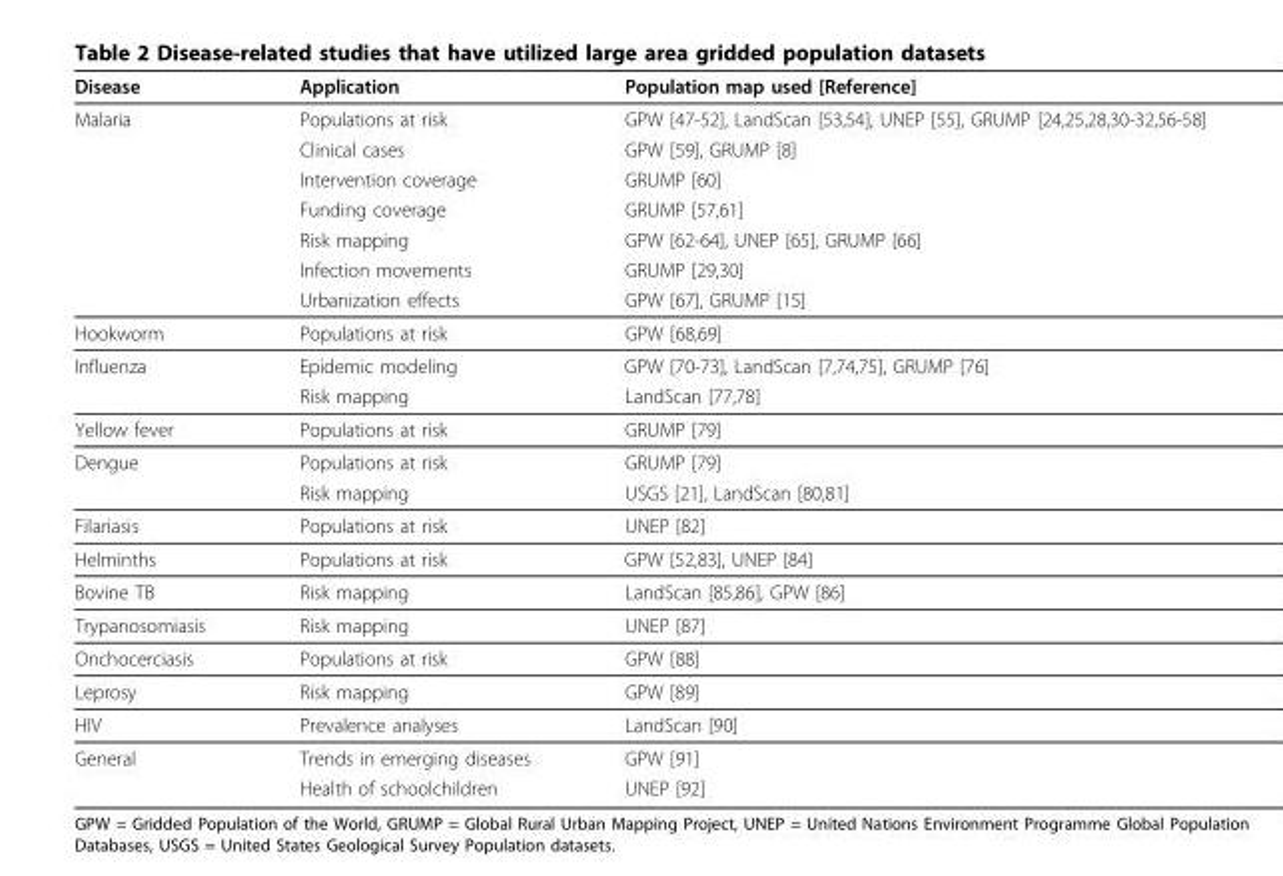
<table><thead><tr><td>Disease</td><td>Application</td><td>Population map used [Reference]</td></tr></thead><tbody><tr><td rowspan="7">Malaria</td><td>Populations at risk</td><td>GPW [47-52], LandScan [53,54], UNEP [55], GRUMP [24,25,28,30-32,56-58]</td></tr><tr><td>Clinical cases</td><td>GPW [59], GRUMP [8]</td></tr><tr><td>Intervention coverage</td><td>GRUMP [60]</td></tr><tr><td>Funding coverage</td><td>GRUMP [57,61]</td></tr><tr><td>Risk mapping</td><td>GPW [62-64], UNEP [65], GRUMP [66]</td></tr><tr><td>Infection movements</td><td>GRUMP [29,30]</td></tr><tr><td>Urbanization effects</td><td>GPW [67], GRUMP [15]</td></tr><tr><td>Hookworm</td><td>Populations at risk</td><td>GPW [68,69]</td></tr><tr><td rowspan="2">Influenza</td><td>Epidemic modeling</td><td>GPW [70-73], LandScan [7,74,75], GRUMP [76]</td></tr><tr><td>Risk mapping</td><td>LandScan [77,78]</td></tr><tr><td>Yellow fever</td><td>Populations at risk</td><td>GRUMP [79]</td></tr><tr><td rowspan="2">Dengue</td><td>Populations at risk</td><td>GRUMP [79]</td></tr><tr><td>Risk mapping</td><td>USGS [21], LandScan [80,81]</td></tr><tr><td>Filariasis</td><td>Populations at risk</td><td>UNEP [82]</td></tr><tr><td>Helminths</td><td>Populations at risk</td><td>GPW [52,83], UNEP [84]</td></tr><tr><td>Bovine TB</td><td>Risk mapping</td><td>LandScan [85,86], GPW [86]</td></tr><tr><td>Trypanosomiasis</td><td>Risk mapping</td><td>UNEP [87]</td></tr><tr><td>Onchocerciasis</td><td>Populations at risk</td><td>GPW [88]</td></tr><tr><td>Leprosy</td><td>Risk mapping</td><td>GPW [89]</td></tr><tr><td>HIV</td><td>Prevalence analyses</td><td>LandScan [90]</td></tr><tr><td rowspan="2">General</td><td>Trends in emerging diseases</td><td>GPW [91]</td></tr><tr><td>Health of schoolchildren</td><td>UNEP [92]</td></tr></tbody></table>